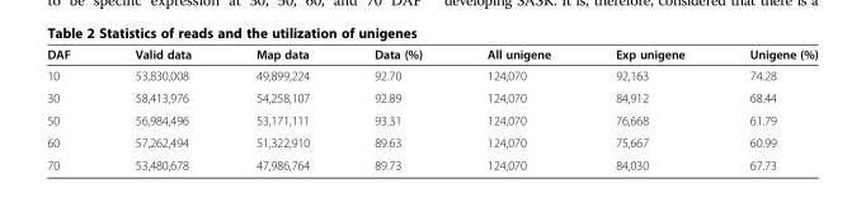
<table><thead><tr><td>DAF</td><td>Valid data</td><td>Map data</td><td>Data (%)</td><td>All unigene</td><td>Exp unigene</td><td>Unigene (%)</td></tr></thead><tbody><tr><td>10</td><td>53,830,008</td><td>49,899,224</td><td>92.70</td><td>124,070</td><td>92,163</td><td>74.28</td></tr><tr><td>30</td><td>58,413,976</td><td>54,258,107</td><td>92.89</td><td>124,070</td><td>84,912</td><td>68.44</td></tr><tr><td>50</td><td>56,984,496</td><td>53,171,111</td><td>93.31</td><td>124,070</td><td>76,668</td><td>61.79</td></tr><tr><td>60</td><td>57,262,494</td><td>51,322,910</td><td>89.63</td><td>124,070</td><td>75,667</td><td>60.99</td></tr><tr><td>70</td><td>53,480,678</td><td>47,986,764</td><td>89.73</td><td>124,070</td><td>84,030</td><td>67.73</td></tr></tbody></table>